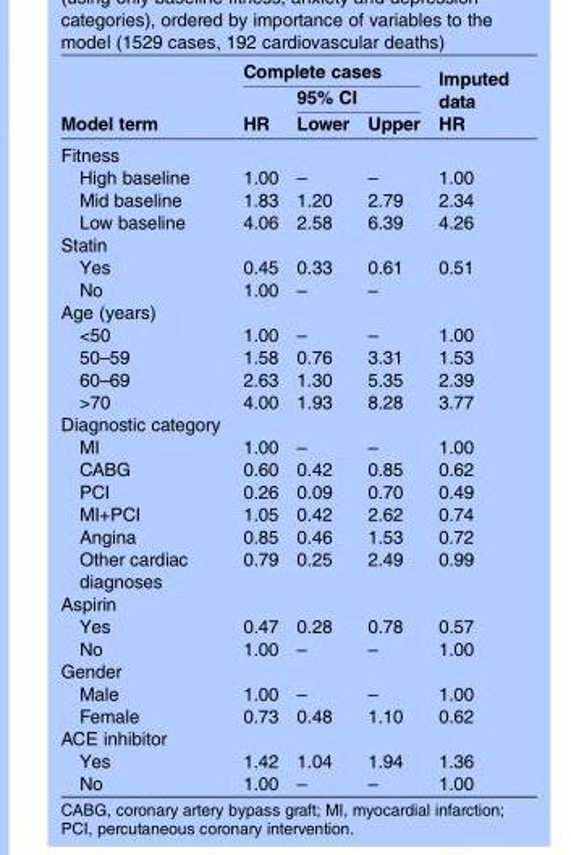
<table><thead><tr><td rowspan="3">Model term</td><td colspan="3">Complete cases</td><td rowspan="3">Imputed data HR</td></tr><tr><td rowspan="2">HR</td><td colspan="2">95% CI</td></tr><tr><td>Lower</td><td>Upper</td></tr></thead><tbody><tr><td colspan="5">Fitness</td></tr><tr><td>High baseline</td><td>1.00</td><td>–</td><td>–</td><td>1.00</td></tr><tr><td>Mid baseline</td><td>1.83</td><td>1.20</td><td>2.79</td><td>2.34</td></tr><tr><td>Low baseline</td><td>4.06</td><td>2.58</td><td>6.39</td><td>4.26</td></tr><tr><td colspan="5">Statin</td></tr><tr><td>Yes</td><td>0.45</td><td>0.33</td><td>0.61</td><td>0.51</td></tr><tr><td>No</td><td>1.00</td><td>–</td><td>–</td><td></td></tr><tr><td colspan="5">Age (years)</td></tr><tr><td>&lt;50</td><td>1.00</td><td>–</td><td>–</td><td>1.00</td></tr><tr><td>50–59</td><td>1.58</td><td>0.76</td><td>3.31</td><td>1.53</td></tr><tr><td>60–69</td><td>2.63</td><td>1.30</td><td>5.35</td><td>2.39</td></tr><tr><td>&gt;70</td><td>4.00</td><td>1.93</td><td>8.28</td><td>3.77</td></tr><tr><td colspan="5">Diagnostic category</td></tr><tr><td>MI</td><td>1.00</td><td>–</td><td>–</td><td>1.00</td></tr><tr><td>CABG</td><td>0.60</td><td>0.42</td><td>0.85</td><td>0.62</td></tr><tr><td>PCI</td><td>0.26</td><td>0.09</td><td>0.70</td><td>0.49</td></tr><tr><td>MI+PCI</td><td>1.05</td><td>0.42</td><td>2.62</td><td>0.74</td></tr><tr><td>Angina</td><td>0.85</td><td>0.46</td><td>1.53</td><td>0.72</td></tr><tr><td>Other cardiac diagnoses</td><td>0.79</td><td>0.25</td><td>2.49</td><td>0.99</td></tr><tr><td colspan="5">Aspirin</td></tr><tr><td>Yes</td><td>0.47</td><td>0.28</td><td>0.78</td><td>0.57</td></tr><tr><td>No</td><td>1.00</td><td>–</td><td>–</td><td>1.00</td></tr><tr><td colspan="5">Gender</td></tr><tr><td>Male</td><td>1.00</td><td>–</td><td>–</td><td>1.00</td></tr><tr><td>Female</td><td>0.73</td><td>0.48</td><td>1.10</td><td>0.62</td></tr><tr><td colspan="5">ACE inhibitor</td></tr><tr><td>Yes</td><td>1.42</td><td>1.04</td><td>1.94</td><td>1.36</td></tr><tr><td>No</td><td>1.00</td><td>–</td><td>–</td><td>1.00</td></tr></tbody></table>